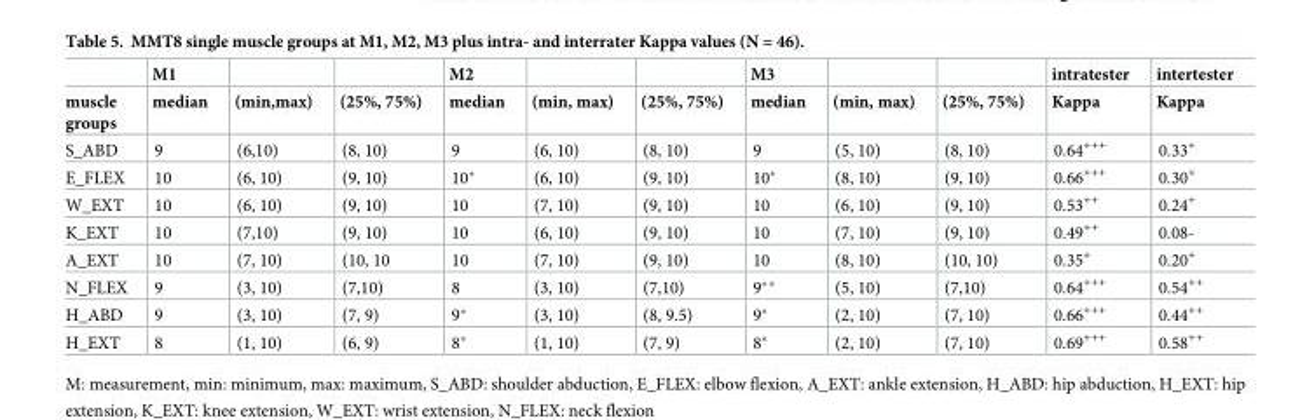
<table><thead><tr><td rowspan="2">muscle groups</td><td rowspan="2">M1 median</td><td rowspan="2">(min,max)</td><td rowspan="2">(25%, 75%)</td><td rowspan="2">M2 median</td><td rowspan="2">(min, max)</td><td rowspan="2">(25%, 75%)</td><td rowspan="2">M3 median</td><td rowspan="2">(min, max)</td><td rowspan="2">(25%, 75%)</td><td rowspan="2">intratester Kappa</td><td rowspan="2">intertester Kappa</td></tr><tr></tr></thead><tbody><tr><td>S_ABD</td><td>9</td><td>(6,10)</td><td>(8, 10)</td><td>9</td><td>(6, 10)</td><td>(8, 10)</td><td>9</td><td>(5, 10)</td><td>(8, 10)</td><td>0.64<sup>+++</sup></td><td>0.33<sup>+</sup></td></tr><tr><td>E_FLEX</td><td>10</td><td>(6, 10)</td><td>(9, 10)</td><td>10*</td><td>(6, 10)</td><td>(9, 10)</td><td>10*</td><td>(8, 10)</td><td>(9, 10)</td><td>0.66<sup>+++</sup></td><td>0.30<sup>+</sup></td></tr><tr><td>W_EXT</td><td>10</td><td>(6, 10)</td><td>(9, 10)</td><td>10</td><td>(7, 10)</td><td>(9, 10)</td><td>10</td><td>(6, 10)</td><td>(9, 10)</td><td>0.53<sup>++</sup></td><td>0.24<sup>+</sup></td></tr><tr><td>K_EXT</td><td>10</td><td>(7,10)</td><td>(9, 10)</td><td>10</td><td>(6, 10)</td><td>(9, 10)</td><td>10</td><td>(7, 10)</td><td>(9, 10)</td><td>0.49<sup>++</sup></td><td>0.08-</td></tr><tr><td>A_EXT</td><td>10</td><td>(7, 10)</td><td>(10, 10</td><td>10</td><td>(7, 10)</td><td>(9, 10)</td><td>10</td><td>(8, 10)</td><td>(10, 10)</td><td>0.35<sup>+</sup></td><td>0.20<sup>+</sup></td></tr><tr><td>N_FLEX</td><td>9</td><td>(3, 10)</td><td>(7,10)</td><td>8</td><td>(3, 10)</td><td>(7,10)</td><td>9**</td><td>(5, 10)</td><td>(7,10)</td><td>0.64<sup>+++</sup></td><td>0.54<sup>++</sup></td></tr><tr><td>H_ABD</td><td>9</td><td>(3, 10)</td><td>(7, 9)</td><td>9*</td><td>(3, 10)</td><td>(8, 9.5)</td><td>9*</td><td>(2, 10)</td><td>(7, 10)</td><td>0.66<sup>+++</sup></td><td>0.44<sup>++</sup></td></tr><tr><td>H_EXT</td><td>8</td><td>(1, 10)</td><td>(6, 9)</td><td>8*</td><td>(1, 10)</td><td>(7, 9)</td><td>8*</td><td>(2, 10)</td><td>(7, 10)</td><td>0.69<sup>+++</sup></td><td>0.58<sup>++</sup></td></tr></tbody></table>